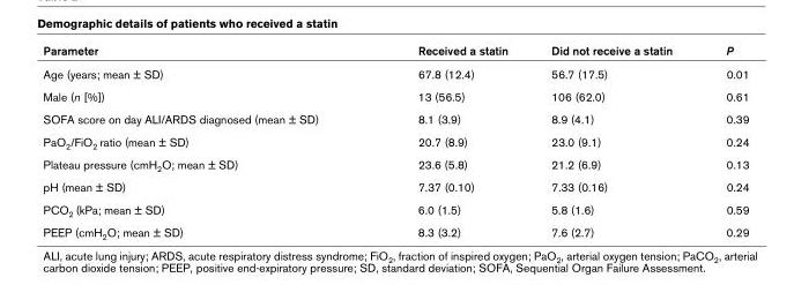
<table><thead><tr><td>Parameter</td><td>Received a statin</td><td>Did not receive a statin</td><td>P</td></tr></thead><tbody><tr><td>Age (years; mean ± SD)</td><td>67.8 (12.4)</td><td>56.7 (17.5)</td><td>0.01</td></tr><tr><td>Male (n [%])</td><td>13 (56.5)</td><td>106 (62.0)</td><td>0.61</td></tr><tr><td>SOFA score on day ALI/ARDS diagnosed (mean ± SD)</td><td>8.1 (3.9)</td><td>8.9 (4.1)</td><td>0.39</td></tr><tr><td>PaO<sub>2</sub>/FiO<sub>2</sub> ratio (mean ± SD)</td><td>20.7 (8.9)</td><td>23.0 (9.1)</td><td>0.24</td></tr><tr><td>Plateau pressure (cmH<sub>2</sub>O; mean ± SD)</td><td>23.6 (5.8)</td><td>21.2 (6.9)</td><td>0.13</td></tr><tr><td>pH (mean ± SD)</td><td>7.37 (0.10)</td><td>7.33 (0.16)</td><td>0.24</td></tr><tr><td>PCO<sub>2</sub> (kPa; mean ± SD)</td><td>6.0 (1.5)</td><td>5.8 (1.6)</td><td>0.59</td></tr><tr><td>PEEP (cmH<sub>2</sub>O; mean ± SD)</td><td>8.3 (3.2)</td><td>7.6 (2.7)</td><td>0.29</td></tr></tbody></table>